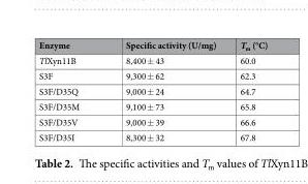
<table><thead><tr><td>Enzyme</td><td>Specific activity (U/mg)</td><td>T<sub>m</sub> (°C)</td></tr></thead><tbody><tr><td>TlXyn11B</td><td>8,400 ± 43</td><td>60.0</td></tr><tr><td>S3F</td><td>9,300 ± 62</td><td>62.3</td></tr><tr><td>S3F/D35Q</td><td>9,000 ± 24</td><td>64.7</td></tr><tr><td>S3F/D35M</td><td>9,100 ± 73</td><td>65.8</td></tr><tr><td>S3F/D35V</td><td>9,000 ± 39</td><td>66.6</td></tr><tr><td>S3F/D35I</td><td>8,300 ± 32</td><td>67.8</td></tr></tbody></table>